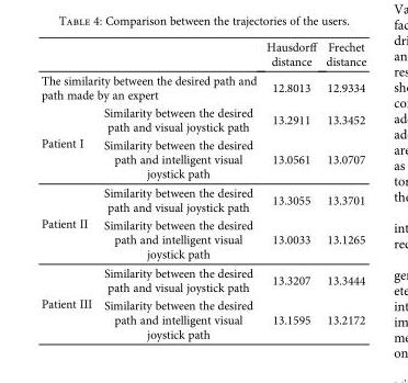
<table><thead><tr><td></td><td></td><td>Hausdorff distance</td><td>Frechet distance</td></tr></thead><tbody><tr><td colspan="2">The similarity between the desired path and path made by an expert</td><td>12.8013</td><td>12.9334</td></tr><tr><td rowspan="2">Patient I</td><td>Similarity between the desired path and visual joystick path</td><td>13.2911</td><td>13.3452</td></tr><tr><td>Similarity between the desired path and intelligent visual joystick path</td><td>13.0561</td><td>13.0707</td></tr><tr><td rowspan="2">Patient II</td><td>Similarity between the desired path and visual joystick path</td><td>13.3055</td><td>13.3701</td></tr><tr><td>Similarity between the desired path and intelligent visual joystick path</td><td>13.0033</td><td>13.1265</td></tr><tr><td rowspan="2">Patient III</td><td>Similarity between the desired path and visual joystick path</td><td>13.3207</td><td>13.3444</td></tr><tr><td>Similarity between the desired path and intelligent visual joystick path</td><td>13.1595</td><td>13.2172</td></tr></tbody></table>